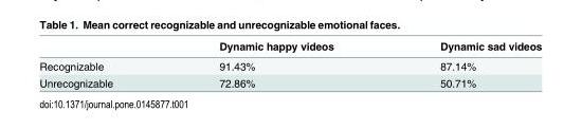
<table><thead><tr><td></td><td>Dynamic happy videos</td><td>Dynamic sad videos</td></tr></thead><tbody><tr><td>Recognizable</td><td>91.43%</td><td>87.14%</td></tr><tr><td>Unrecognizable</td><td>72.86%</td><td>50.71%</td></tr></tbody></table>